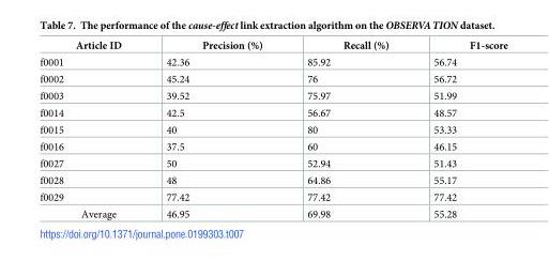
<table><thead><tr><td>Article ID</td><td>Precision (%)</td><td>Recall (%)</td><td>F1-score</td></tr></thead><tbody><tr><td>f0001</td><td>42.36</td><td>85.92</td><td>56.74</td></tr><tr><td>f0002</td><td>45.24</td><td>76</td><td>56.72</td></tr><tr><td>f0003</td><td>39.52</td><td>75.97</td><td>51.99</td></tr><tr><td>f0014</td><td>42.5</td><td>56.67</td><td>48.57</td></tr><tr><td>f0015</td><td>40</td><td>80</td><td>53.33</td></tr><tr><td>f0016</td><td>37.5</td><td>60</td><td>46.15</td></tr><tr><td>f0027</td><td>50</td><td>52.94</td><td>51.43</td></tr><tr><td>f0028</td><td>48</td><td>64.86</td><td>55.17</td></tr><tr><td>f0029</td><td>77.42</td><td>77.42</td><td>77.42</td></tr><tr><td>Average</td><td>46.95</td><td>69.98</td><td>55.28</td></tr></tbody></table>